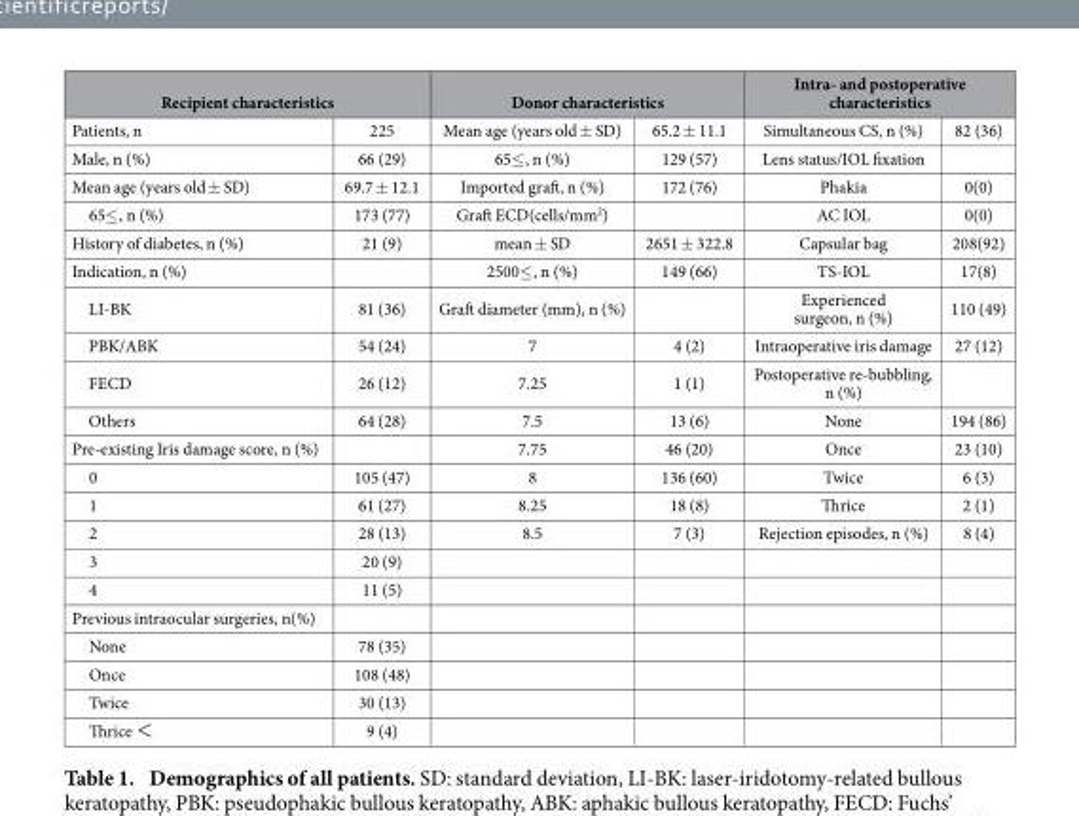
<table><thead><tr><td colspan="2">Recipient characteristics</td><td colspan="2">Donor characteristics</td><td colspan="2">Intra- and postoperative characteristics</td></tr><tr><td>Patients, n</td><td>225</td><td>Mean age (years old ± SD)</td><td>65.2 ± 11.1</td><td>Simultaneous CS, n (%)</td><td>82 (36)</td></tr></thead><tbody><tr><td>Male, n (%)</td><td>66 (29)</td><td>65≤ , n (%)</td><td>129 (57)</td><td>Lens status/IOL fixation</td><td></td></tr><tr><td>Mean age (years old ± SD)</td><td>69.7 ± 12.1</td><td>Imported graft, n (%)</td><td>172 (76)</td><td>Phakia</td><td>0(0)</td></tr><tr><td>65≤ , n (%)</td><td>173 (77)</td><td>Graft ECD(cells/mm<sup>2</sup>)</td><td></td><td>AC IOL</td><td>0(0)</td></tr><tr><td>History of diabetes, n (%)</td><td>21 (9)</td><td>mean ± SD</td><td>2651 ± 322.8</td><td>Capsular bag</td><td>208(92)</td></tr><tr><td>Indication, n (%)</td><td></td><td>2500≤ , n (%)</td><td>149 (66)</td><td>TS-IOL</td><td>17(8)</td></tr><tr><td>LI-BK</td><td>81 (36)</td><td>Graft diameter (mm), n (%)</td><td></td><td>Experienced surgeon, n (%)</td><td>110 (49)</td></tr><tr><td>PBK/ABK</td><td>54 (24)</td><td>7</td><td>4 (2)</td><td>Intraoperative iris damage</td><td>27 (12)</td></tr><tr><td>FECD</td><td>26 (12)</td><td>7.25</td><td>1 (1)</td><td>Postoperative re-bubbling, n (%)</td><td></td></tr><tr><td>Others</td><td>64 (28)</td><td>7.5</td><td>13 (6)</td><td>None</td><td>194 (86)</td></tr><tr><td>Pre-existing Iris damage score, n (%)</td><td></td><td>7.75</td><td>46 (20)</td><td>Once</td><td>23 (10)</td></tr><tr><td>0</td><td>105 (47)</td><td>8</td><td>136 (60)</td><td>Twice</td><td>6 (3)</td></tr><tr><td>1</td><td>61 (27)</td><td>8.25</td><td>18 (8)</td><td>Thrice</td><td>2 (1)</td></tr><tr><td>2</td><td>28 (13)</td><td>8.5</td><td>7 (3)</td><td>Rejection episodes, n (%)</td><td>8 (4)</td></tr><tr><td>3</td><td>20 (9)</td><td></td><td></td><td></td><td></td></tr><tr><td>4</td><td>11 (5)</td><td></td><td></td><td></td><td></td></tr><tr><td colspan="6">Previous intraocular surgeries, n(%)</td></tr><tr><td>None</td><td>78 (35)</td><td></td><td></td><td></td><td></td></tr><tr><td>Once</td><td>108 (48)</td><td></td><td></td><td></td><td></td></tr><tr><td>Twice</td><td>30 (13)</td><td></td><td></td><td></td><td></td></tr><tr><td>Thrice ＜</td><td>9 (4)</td><td></td><td></td><td></td><td></td></tr></tbody></table>